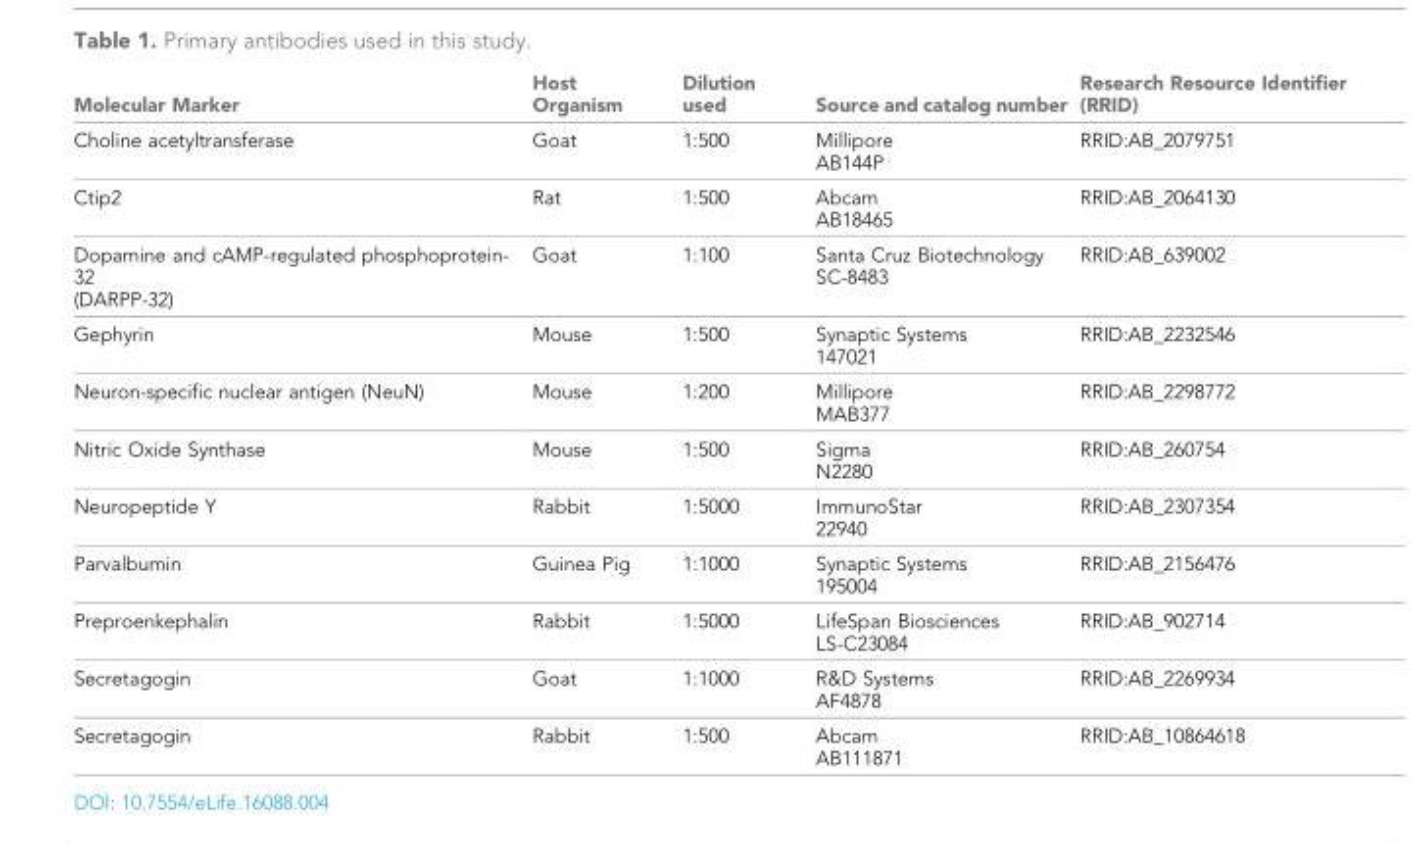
<table><thead><tr><td>Molecular Marker</td><td>Host Organism</td><td>Dilution used</td><td>Source and catalog number</td><td>Research Resource Identifier (RRID)</td></tr></thead><tbody><tr><td>Choline acetyltransferase</td><td>Goat</td><td>1:500</td><td>Millipore AB144P</td><td>RRID:AB_2079751</td></tr><tr><td>Ctip2</td><td>Rat</td><td>1:500</td><td>Abcam AB18465</td><td>RRID:AB_2064130</td></tr><tr><td>Dopamine and cAMP-regulated phosphoprotein- 32 (DARPP-32)</td><td>Goat</td><td>1:100</td><td>Santa Cruz Biotechnology SC-8483</td><td>RRID:AB_639002</td></tr><tr><td>Gephyrin</td><td>Mouse</td><td>1:500</td><td>Synaptic Systems 147021</td><td>RRID:AB_2232546</td></tr><tr><td>Neuron-specific nuclear antigen (NeuN)</td><td>Mouse</td><td>1:200</td><td>Millipore MAB377</td><td>RRID:AB_2298772</td></tr><tr><td>Nitric Oxide Synthase</td><td>Mouse</td><td>1:500</td><td>Sigma N2280</td><td>RRID:AB_260754</td></tr><tr><td>Neuropeptide Y</td><td>Rabbit</td><td>1:5000</td><td>ImmunoStar 22940</td><td>RRID:AB_2307354</td></tr><tr><td>Parvalbumin</td><td>Guinea Pig</td><td>1:1000</td><td>Synaptic Systems 195004</td><td>RRID:AB_2156476</td></tr><tr><td>Preproenkephalin</td><td>Rabbit</td><td>1:5000</td><td>LifeSpan Biosciences LS-C23084</td><td>RRID:AB_902714</td></tr><tr><td>Secretagogin</td><td>Goat</td><td>1:1000</td><td>R&amp;D Systems AF4878</td><td>RRID:AB_2269934</td></tr><tr><td>Secretagogin</td><td>Rabbit</td><td>1:500</td><td>Abcam AB111871</td><td>RRID:AB_10864618</td></tr></tbody></table>